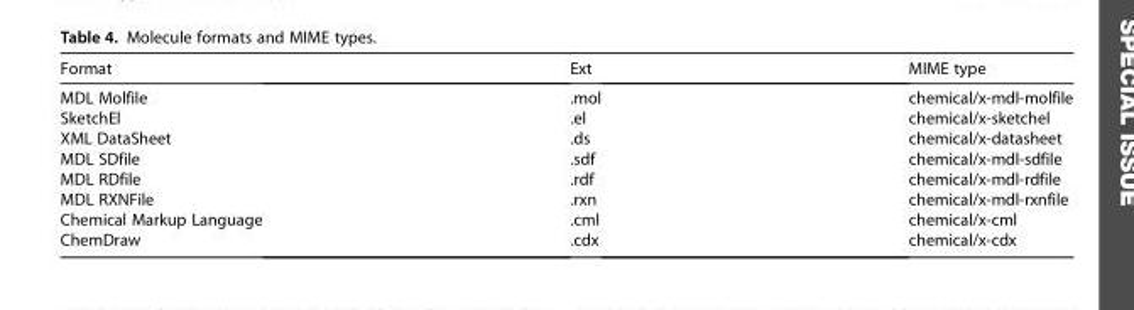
<table><thead><tr><td>Format</td><td>Ext</td><td>MIME type</td></tr></thead><tbody><tr><td>MDL Molfile</td><td>.mol</td><td>chemical/x-mdl-molfile</td></tr><tr><td>SketchEl</td><td>.el</td><td>chemical/x-sketchel</td></tr><tr><td>XML DataSheet</td><td>.ds</td><td>chemical/x-datasheet</td></tr><tr><td>MDL SDfile</td><td>.sdf</td><td>chemical/x-mdl-sdfile</td></tr><tr><td>MDL RDfile</td><td>.rdf</td><td>chemical/x-mdl-rdfile</td></tr><tr><td>MDL RXNFile</td><td>.rxn</td><td>chemical/x-mdl-rxnfile</td></tr><tr><td>Chemical Markup Language</td><td>.cml</td><td>chemical/x-cml</td></tr><tr><td>ChemDraw</td><td>.cdx</td><td>chemical/x-cdx</td></tr></tbody></table>